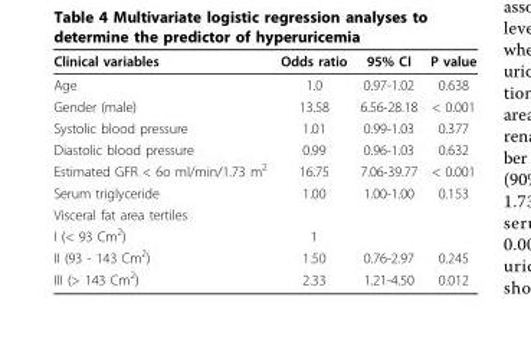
<table><thead><tr><td>Clinical variables</td><td>Odds ratio</td><td>95% CI</td><td>P value</td></tr></thead><tbody><tr><td>Age</td><td>1.0</td><td>0.97-1.02</td><td>0.638</td></tr><tr><td>Gender (male)</td><td>13.58</td><td>6.56-28.18</td><td>&lt; 0.001</td></tr><tr><td>Systolic blood pressure</td><td>1.01</td><td>0.99-1.03</td><td>0.377</td></tr><tr><td>Diastolic blood pressure</td><td>0.99</td><td>0.96-1.03</td><td>0.632</td></tr><tr><td>Estimated GFR &lt; 6o ml/min/1.73 m<sup>2</sup></td><td>16.75</td><td>7.06-39.77</td><td>&lt; 0.001</td></tr><tr><td>Serum triglyceride</td><td>1.00</td><td>1.00-1.00</td><td>0.153</td></tr><tr><td colspan="4">Visceral fat area tertiles</td></tr><tr><td>I (&lt; 93 Cm<sup>2</sup>)</td><td>1</td><td></td><td></td></tr><tr><td>II (93 - 143 Cm<sup>2</sup>)</td><td>1.50</td><td>0.76-2.97</td><td>0.245</td></tr><tr><td>III (&gt; 143 Cm<sup>2</sup>)</td><td>2.33</td><td>1.21-4.50</td><td>0.012</td></tr></tbody></table>